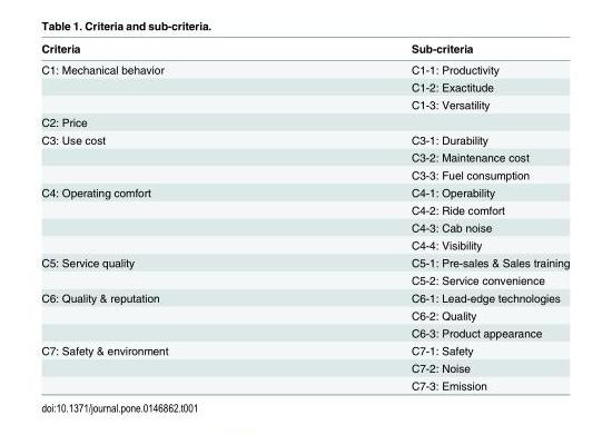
<table><thead><tr><td>Criteria</td><td>Sub-criteria</td></tr></thead><tbody><tr><td rowspan="3">C1: Mechanical behavior</td><td>C1-1: Productivity</td></tr><tr><td>C1-2: Exactitude</td></tr><tr><td>C1-3: Versatility</td></tr><tr><td colspan="2">C2: Price</td></tr><tr><td rowspan="3">C3: Use cost</td><td>C3-1: Durability</td></tr><tr><td>C3-2: Maintenance cost</td></tr><tr><td>C3-3: Fuel consumption</td></tr><tr><td rowspan="4">C4: Operating comfort</td><td>C4-1: Operability</td></tr><tr><td>C4-2: Ride comfort</td></tr><tr><td>C4-3: Cab noise</td></tr><tr><td>C4-4: Visibility</td></tr><tr><td rowspan="2">C5: Service quality</td><td>C5-1: Pre-sales &amp; Sales training</td></tr><tr><td>C5-2: Service convenience</td></tr><tr><td rowspan="3">C6: Quality &amp; reputation</td><td>C6-1: Lead-edge technologies</td></tr><tr><td>C6-2: Quality</td></tr><tr><td>C6-3: Product appearance</td></tr><tr><td rowspan="3">C7: Safety &amp; environment</td><td>C7-1: Safety</td></tr><tr><td>C7-2: Noise</td></tr><tr><td>C7-3: Emission</td></tr></tbody></table>